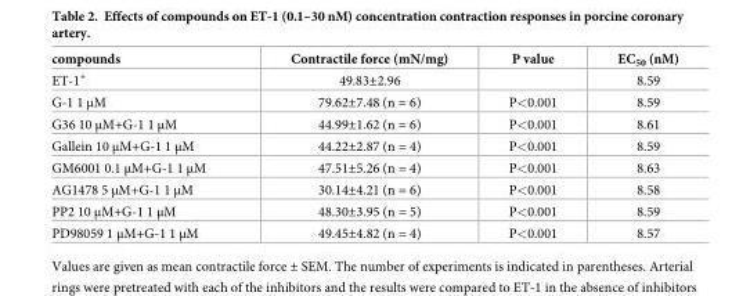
<table><thead><tr><td>compounds</td><td>Contractile force (mN/mg)</td><td>P value</td><td>EC<sub>50</sub> (nM)</td></tr></thead><tbody><tr><td>ET-1<sup>+</sup></td><td>49.83±2.96</td><td></td><td>8.59</td></tr><tr><td>G-1 1 μM</td><td>79.62±7.48 (n = 6)</td><td>P&lt;0.001</td><td>8.59</td></tr><tr><td>G36 10 μM+G-1 1 μM</td><td>44.99±1.62 (n = 6)</td><td>P&lt;0.001</td><td>8.61</td></tr><tr><td>Gallein 10 μM+G-1 1 μM</td><td>44.22±2.87 (n = 4)</td><td>P&lt;0.001</td><td>8.59</td></tr><tr><td>GM6001 0.1 μM+G-1 1 μM</td><td>47.51±5.26 (n = 4)</td><td>P&lt;0.001</td><td>8.63</td></tr><tr><td>AG1478 5 μM+G-1 1 μM</td><td>30.14±4.21 (n = 6)</td><td>P&lt;0.001</td><td>8.58</td></tr><tr><td>PP2 10 μM+G-1 1 μM</td><td>48.30±3.95 (n = 5)</td><td>P&lt;0.001</td><td>8.59</td></tr><tr><td>PD98059 1 μM+G-1 1 μM</td><td>49.45±4.82 (n = 4)</td><td>P&lt;0.001</td><td>8.57</td></tr></tbody></table>